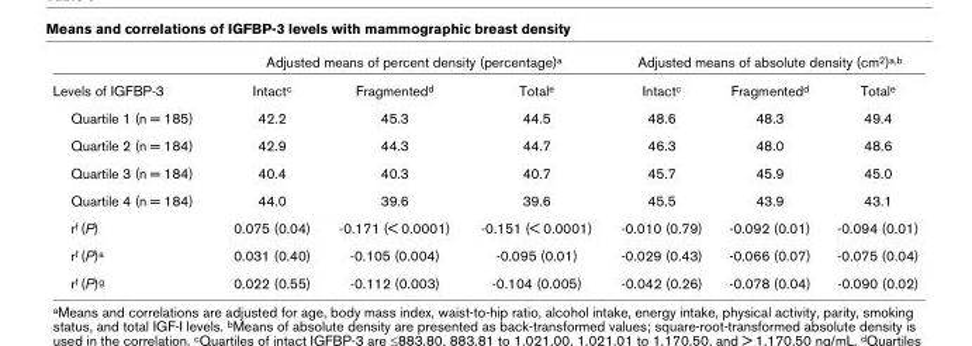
<table><thead><tr><td rowspan="2">Levels of IGFBP-3</td><td colspan="3">Adjusted means of percent density (percentage)<sup>a</sup></td><td colspan="3">Adjusted means of absolute density (cm<sup>2</sup>)<sup>a,b</sup></td></tr><tr><td>Intact<sup>c</sup></td><td>Fragmented<sup>d</sup></td><td>Total<sup>e</sup></td><td>Intact<sup>c</sup></td><td>Fragmented<sup>d</sup></td><td>Total<sup>e</sup></td></tr></thead><tbody><tr><td>Quartile 1 (n = 185)</td><td>42.2</td><td>45.3</td><td>44.5</td><td>48.6</td><td>48.3</td><td>49.4</td></tr><tr><td>Quartile 2 (n = 184)</td><td>42.9</td><td>44.3</td><td>44.7</td><td>46.3</td><td>48.0</td><td>48.6</td></tr><tr><td>Quartile 3 (n = 184)</td><td>40.4</td><td>40.3</td><td>40.7</td><td>45.7</td><td>45.9</td><td>45.0</td></tr><tr><td>Quartile 4 (n = 184)</td><td>44.0</td><td>39.6</td><td>39.6</td><td>45.5</td><td>43.9</td><td>43.1</td></tr><tr><td>r<sup>f</sup> (P)</td><td>0.075 (0.04)</td><td>-0.171 (&lt; 0.0001)</td><td>-0.151 (&lt; 0.0001)</td><td>-0.010 (0.79)</td><td>-0.092 (0.01)</td><td>-0.094 (0.01)</td></tr><tr><td>r<sup>f</sup> (P)<sup>a</sup></td><td>0.031 (0.40)</td><td>-0.105 (0.004)</td><td>-0.095 (0.01)</td><td>-0.029 (0.43)</td><td>-0.066 (0.07)</td><td>-0.075 (0.04)</td></tr><tr><td>r<sup>f</sup> (P)<sup>g</sup></td><td>0.022 (0.55)</td><td>-0.112 (0.003)</td><td>-0.104 (0.005)</td><td>-0.042 (0.26)</td><td>-0.078 (0.04)</td><td>-0.090 (0.02)</td></tr></tbody></table>